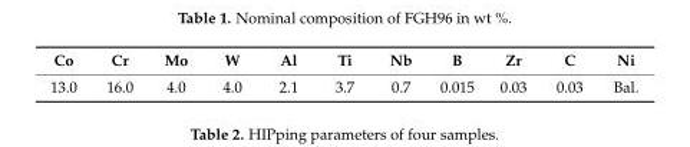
<table><thead><tr><td>Co</td><td>Cr</td><td>Mo</td><td>W</td><td>Al</td><td>Ti</td><td>Nb</td><td>B</td><td>Zr</td><td>C</td><td>Ni</td></tr></thead><tbody><tr><td>13.0</td><td>16.0</td><td>4.0</td><td>4.0</td><td>2.1</td><td>3.7</td><td>0.7</td><td>0.015</td><td>0.03</td><td>0.03</td><td>Bal.</td></tr></tbody></table>